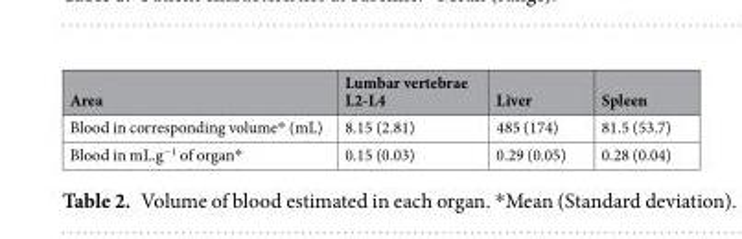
<table><thead><tr><td>Area</td><td>Lumbar vertebrae L2-L4</td><td>Liver</td><td>Spleen</td></tr></thead><tbody><tr><td>Blood in corresponding volume* (mL)</td><td>8.15 (2.81)</td><td>485 (174)</td><td>81.5 (53.7)</td></tr><tr><td>Blood in mL.g<sup>−1</sup> of organ*</td><td>0.15 (0.03)</td><td>0.29 (0.05)</td><td>0.28 (0.04)</td></tr></tbody></table>